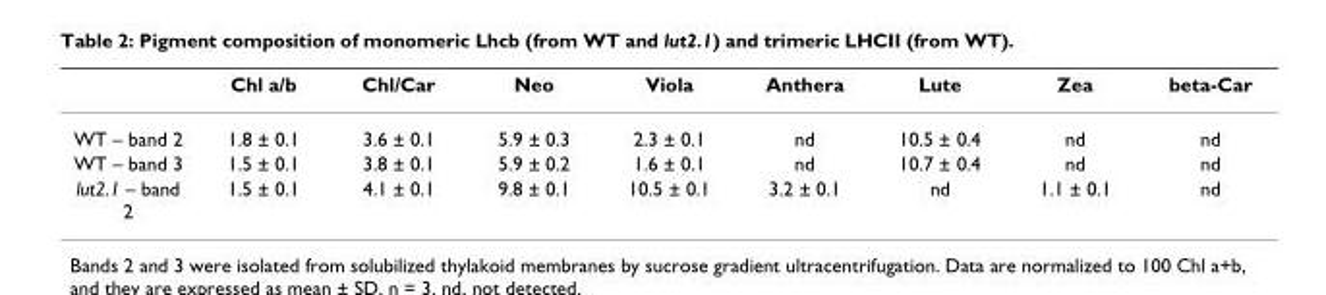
<table><thead><tr><td></td><td>Chl a/b</td><td>Chl/Car</td><td>Neo</td><td>Viola</td><td>Anthera</td><td>Lute</td><td>Zea</td><td>beta-Car</td></tr></thead><tbody><tr><td>WT – band 2</td><td>1.8 ± 0.1</td><td>3.6 ± 0.1</td><td>5.9 ± 0.3</td><td>2.3 ± 0.1</td><td>nd</td><td>10.5 ± 0.4</td><td>nd</td><td>nd</td></tr><tr><td>WT – band 3</td><td>1.5 ± 0.1</td><td>3.8 ± 0.1</td><td>5.9 ± 0.2</td><td>1.6 ± 0.1</td><td>nd</td><td>10.7 ± 0.4</td><td>nd</td><td>nd</td></tr><tr><td>lut2.1 – band 2</td><td>1.5 ± 0.1</td><td>4.1 ± 0.1</td><td>9.8 ± 0.1</td><td>10.5 ± 0.1</td><td>3.2 ± 0.1</td><td>nd</td><td>1.1 ± 0.1</td><td>nd</td></tr></tbody></table>